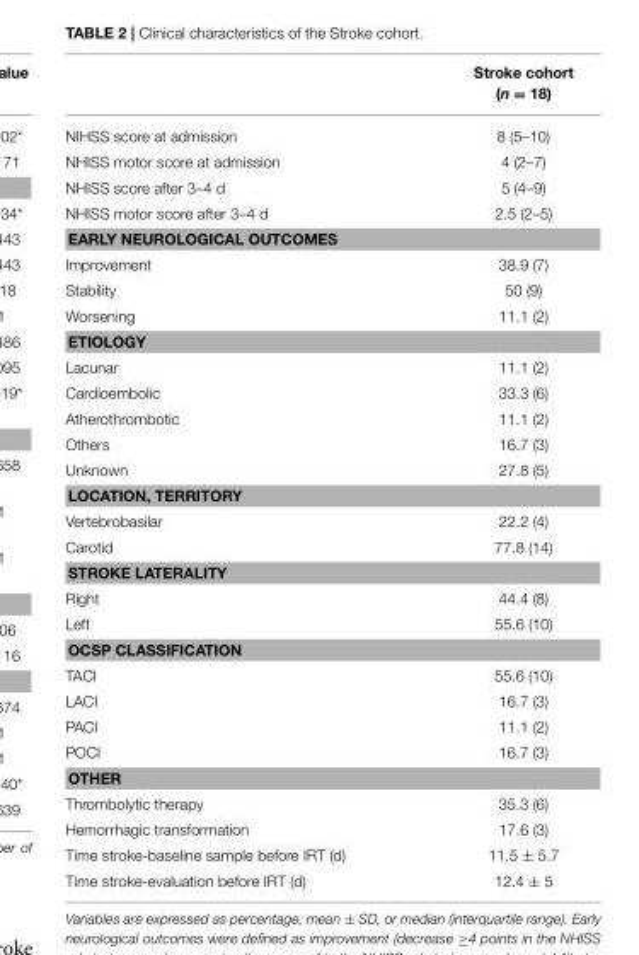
<table><thead><tr><td></td><td>Stroke cohort (n = 18)</td></tr></thead><tbody><tr><td>NIHSS score at admission</td><td>8 (5–10)</td></tr><tr><td>NHISS motor score at admission</td><td>4 (2–7)</td></tr><tr><td>NHISS score after 3–4 d</td><td>5 (4–9)</td></tr><tr><td>NHISS motor score after 3–4 d</td><td>2.5 (2–5)</td></tr><tr><td colspan="2">EARLY NEUROLOGICAL OUTCOMES</td></tr><tr><td>Improvement</td><td>38.9 (7)</td></tr><tr><td>Stability</td><td>50 (9)</td></tr><tr><td>Worsening</td><td>11.1 (2)</td></tr><tr><td colspan="2">ETIOLOGY</td></tr><tr><td>Lacunar</td><td>11.1 (2)</td></tr><tr><td>Cardioembolic</td><td>33.3 (6)</td></tr><tr><td>Atherothrombotic</td><td>11.1 (2)</td></tr><tr><td>Others</td><td>16.7 (3)</td></tr><tr><td>Unknown</td><td>27.8 (5)</td></tr><tr><td colspan="2">LOCATION, TERRITORY</td></tr><tr><td>Vertebrobasilar</td><td>22.2 (4)</td></tr><tr><td>Carotid</td><td>77.8 (14)</td></tr><tr><td colspan="2">STROKE LATERALITY</td></tr><tr><td>Right</td><td>44.4 (8)</td></tr><tr><td>Left</td><td>55.6 (10)</td></tr><tr><td colspan="2">OCSP CLASSIFICATION</td></tr><tr><td>TACI</td><td>55.6 (10)</td></tr><tr><td>LACI</td><td>16.7 (3)</td></tr><tr><td>PACI</td><td>11.1 (2)</td></tr><tr><td>POCI</td><td>16.7 (3)</td></tr><tr><td colspan="2">OTHER</td></tr><tr><td>Thrombolytic therapy</td><td>35.3 (6)</td></tr><tr><td>Hemorrhagic transformation</td><td>17.6 (3)</td></tr><tr><td>Time stroke-baseline sample before IRT (d)</td><td>11.5 ± 5.7</td></tr><tr><td>Time stroke-evaluation before IRT (d)</td><td>12.4 ± 5</td></tr></tbody></table>